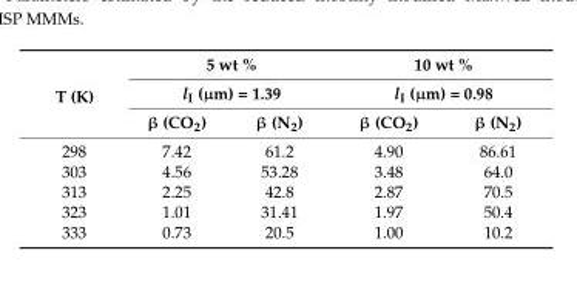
<table><thead><tr><td rowspan="3">T (K)</td><td rowspan="2" colspan="2">5 wt % l<sub>I</sub> (µm) = 1.39</td><td rowspan="2" colspan="2">10 wt % l<sub>I</sub> (µm) = 0.98</td></tr><tr></tr><tr><td>β (CO<sub>2</sub>)</td><td>β (N<sub>2</sub>)</td><td>β (CO<sub>2</sub>)</td><td>β (N<sub>2</sub>)</td></tr></thead><tbody><tr><td>298</td><td>7.42</td><td>61.2</td><td>4.90</td><td>86.61</td></tr><tr><td>303</td><td>4.56</td><td>53.28</td><td>3.48</td><td>64.0</td></tr><tr><td>313</td><td>2.25</td><td>42.8</td><td>2.87</td><td>70.5</td></tr><tr><td>323</td><td>1.01</td><td>31.41</td><td>1.97</td><td>50.4</td></tr><tr><td>333</td><td>0.73</td><td>20.5</td><td>1.00</td><td>10.2</td></tr></tbody></table>